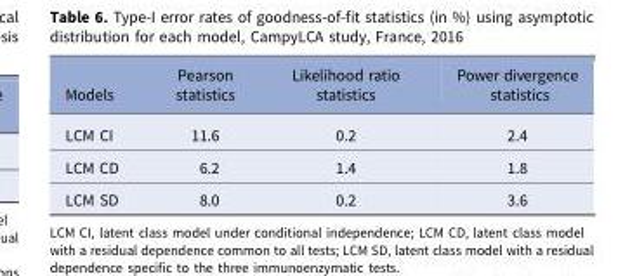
<table><thead><tr><td>Models</td><td>Pearson statistics</td><td>Likelihood ratio statistics</td><td>Power divergence statistics</td></tr></thead><tbody><tr><td>LCM CI</td><td>11.6</td><td>0.2</td><td>2.4</td></tr><tr><td>LCM CD</td><td>6.2</td><td>1.4</td><td>1.8</td></tr><tr><td>LCM SD</td><td>8.0</td><td>0.2</td><td>3.6</td></tr></tbody></table>